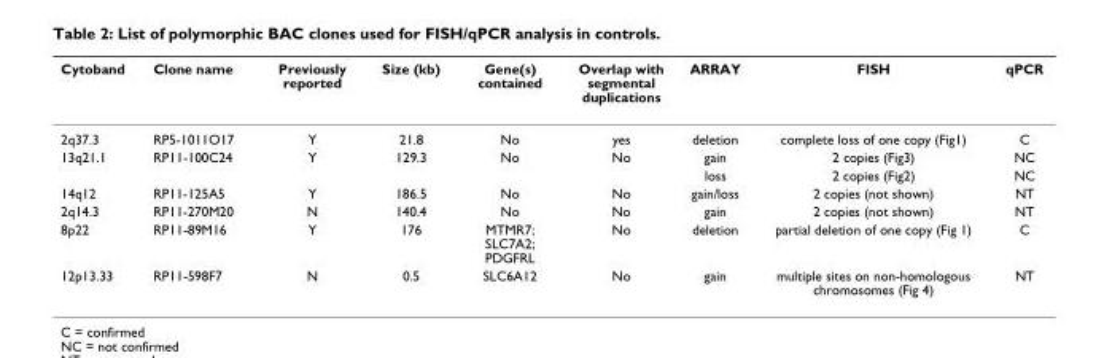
<table><thead><tr><td>Cytoband</td><td>Clone name</td><td>Previously reported</td><td>Size (kb)</td><td>Gene(s) contained</td><td>Overlap with segmental duplications</td><td>ARRAY</td><td>FISH</td><td>qPCR</td></tr></thead><tbody><tr><td>2q37.3</td><td>RP5-1011O17</td><td>Y</td><td>21.8</td><td>No</td><td>yes</td><td>deletion</td><td>complete loss of one copy (Fig1)</td><td>C</td></tr><tr><td rowspan="2">13q21.1</td><td>RP11-100C24</td><td>Y</td><td>129.3</td><td>No</td><td>No</td><td>gain</td><td>2 copies (Fig3)</td><td>NC</td></tr><tr><td></td><td></td><td></td><td></td><td></td><td>loss</td><td>2 copies (Fig2)</td><td>NC</td></tr><tr><td>14q12</td><td>RP11-125A5</td><td>Y</td><td>186.5</td><td>No</td><td>No</td><td>gain/loss</td><td>2 copies (not shown)</td><td>NT</td></tr><tr><td>2q14.3</td><td>RP11-270M20</td><td>N</td><td>140.4</td><td>No</td><td>No</td><td>gain</td><td>2 copies (not shown)</td><td>NT</td></tr><tr><td>8p22</td><td>RP11-89M16</td><td>Y</td><td>176</td><td>MTMR7; SLC7A2; PDGFRL</td><td>No</td><td>deletion</td><td>partial deletion of one copy (Fig 1)</td><td>C</td></tr><tr><td>12p13.33</td><td>RP11-598F7</td><td>N</td><td>0.5</td><td>SLC6A12</td><td>No</td><td>gain</td><td>multiple sites on non-homologous chromosomes (Fig 4)</td><td>NT</td></tr></tbody></table>